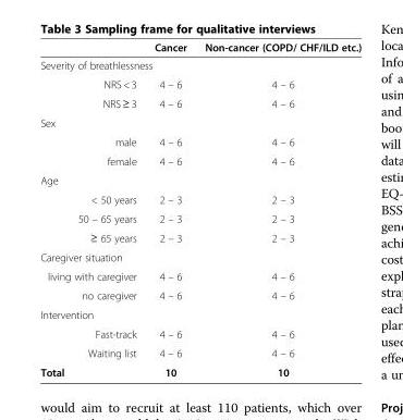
<table><thead><tr><td></td><td>Cancer</td><td>Non-cancer (COPD/ CHF/ILD etc.)</td></tr></thead><tbody><tr><td colspan="3">Severity of breathlessness</td></tr><tr><td>NRS &lt; 3</td><td>4 – 6</td><td>4 – 6</td></tr><tr><td>NRS ≥ 3</td><td>4 – 6</td><td>4 – 6</td></tr><tr><td colspan="3">Sex</td></tr><tr><td>male</td><td>4 – 6</td><td>4 – 6</td></tr><tr><td>female</td><td>4 – 6</td><td>4 – 6</td></tr><tr><td colspan="3">Age</td></tr><tr><td>&lt; 50 years</td><td>2 – 3</td><td>2 – 3</td></tr><tr><td>50 – 65 years</td><td>2 – 3</td><td>2 – 3</td></tr><tr><td>≥ 65 years</td><td>2 – 3</td><td>2 – 3</td></tr><tr><td colspan="3">Caregiver situation</td></tr><tr><td>living with caregiver</td><td>4 – 6</td><td>4 – 6</td></tr><tr><td>no caregiver</td><td>4 – 6</td><td>4 – 6</td></tr><tr><td colspan="3">Intervention</td></tr><tr><td>Fast-track</td><td>4 – 6</td><td>4 – 6</td></tr><tr><td>Waiting list</td><td>4 – 6</td><td>4 – 6</td></tr><tr><td>Total</td><td>10</td><td>10</td></tr></tbody></table>